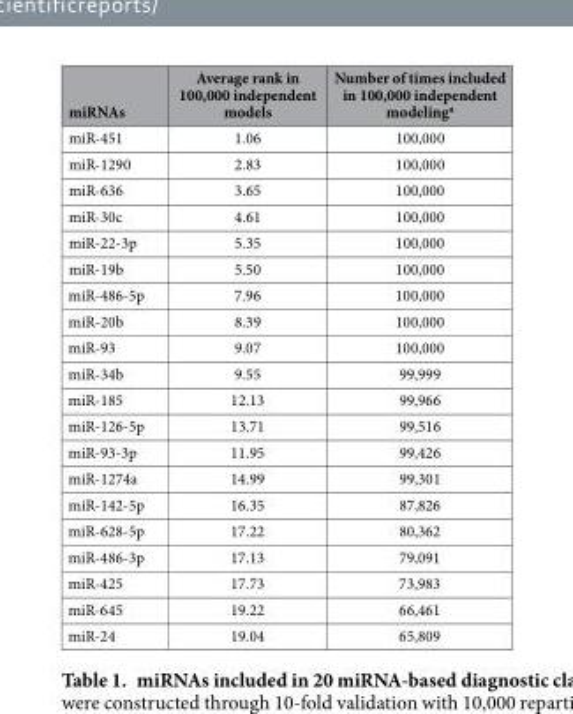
<table><thead><tr><td>miRNAs</td><td>Average rank in 100,000 independent models</td><td>Number of times included in 100,000 independent modeling<sup>a</sup></td></tr></thead><tbody><tr><td>miR-451</td><td>1.06</td><td>100,000</td></tr><tr><td>miR-1290</td><td>2.83</td><td>100,000</td></tr><tr><td>miR-636</td><td>3.65</td><td>100,000</td></tr><tr><td>miR-30c</td><td>4.61</td><td>100,000</td></tr><tr><td>miR-22-3p</td><td>5.35</td><td>100,000</td></tr><tr><td>miR-19b</td><td>5.50</td><td>100,000</td></tr><tr><td>miR-486-5p</td><td>7.96</td><td>100,000</td></tr><tr><td>miR-20b</td><td>8.39</td><td>100,000</td></tr><tr><td>miR-93</td><td>9.07</td><td>100,000</td></tr><tr><td>miR-34b</td><td>9.55</td><td>99,999</td></tr><tr><td>miR-185</td><td>12.13</td><td>99,966</td></tr><tr><td>miR-126-5p</td><td>13.71</td><td>99,516</td></tr><tr><td>miR-93-3p</td><td>11.95</td><td>99,426</td></tr><tr><td>miR-1274a</td><td>14.99</td><td>99,301</td></tr><tr><td>miR-142-5p</td><td>16.35</td><td>87,826</td></tr><tr><td>miR-628-5p</td><td>17.22</td><td>80,362</td></tr><tr><td>miR-486-3p</td><td>17.13</td><td>79,091</td></tr><tr><td>miR-425</td><td>17.73</td><td>73,983</td></tr><tr><td>miR-645</td><td>19.22</td><td>66,461</td></tr><tr><td>miR-24</td><td>19.04</td><td>65,809</td></tr></tbody></table>